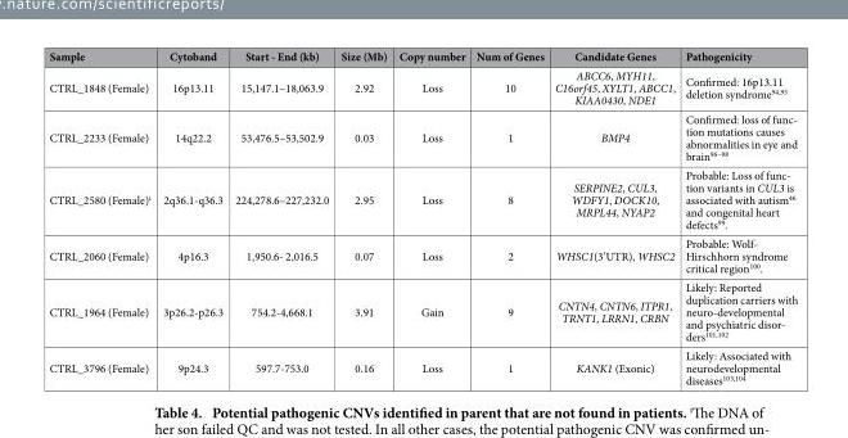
<table><thead><tr><td>Sample</td><td>Cytoband</td><td>Start - End (kb)</td><td>Size (Mb)</td><td>Copy number</td><td>Num of Genes</td><td>Candidate Genes</td><td>Pathogenicity</td></tr></thead><tbody><tr><td>CTRL_1848 (Female)</td><td>16p13.11</td><td>15,147.1–18,063.9</td><td>2.92</td><td>Loss</td><td>10</td><td>ABCC6, MYH11, C16orf45, XYLT1, ABCC1, KIAA0430, NDE1</td><td>Confirmed: 16p13.11 deletion syndrome<sup>94</sup>,<sup>95</sup></td></tr><tr><td>CTRL_2233 (Female)</td><td>14q22.2</td><td>53,476.5–53,502.9</td><td>0.03</td><td>Loss</td><td>1</td><td>BMP4</td><td>Confirmed: loss of func- tion mutations causes abnormalities in eye and brain96–98</td></tr><tr><td>CTRL_2580 (Female)<sup>i</sup></td><td>2q36.1-q36.3</td><td>224,278.6–227,232.0</td><td>2.95</td><td>Loss</td><td>8</td><td>SERPINE2, CUL3, WDFY1, DOCK10, MRPL44, NYAP2</td><td>Probable: Loss of func- tion variants in CUL3 is associated with autism46 and congenital heart defects99.</td></tr><tr><td>CTRL_2060 (Female)</td><td>4p16.3</td><td>1,950.6- 2,016.5</td><td>0.07</td><td>Loss</td><td>2</td><td>WHSC1(3’UTR), WHSC2</td><td>Probable: Wolf- Hirschhorn syndrome critical region<sup>100</sup>.</td></tr><tr><td>CTRL_1964 (Female)</td><td>3p26.2-p26.3</td><td>754.2-4,668.1</td><td>3.91</td><td>Gain</td><td>9</td><td>CNTN4, CNTN6, ITPR1, TRNT1, LRRN1, CRBN</td><td>Likely: Reported duplication carriers with neuro-developmental and psychiatric disor- ders101,102</td></tr><tr><td>CTRL_3796 (Female)</td><td>9p24.3</td><td>597.7-753.0</td><td>0.16</td><td>Loss</td><td>1</td><td>KANK1 (Exonic)</td><td>Likely: Associated with neurodevelopmental diseases<sup>103</sup>,<sup>104</sup></td></tr></tbody></table>